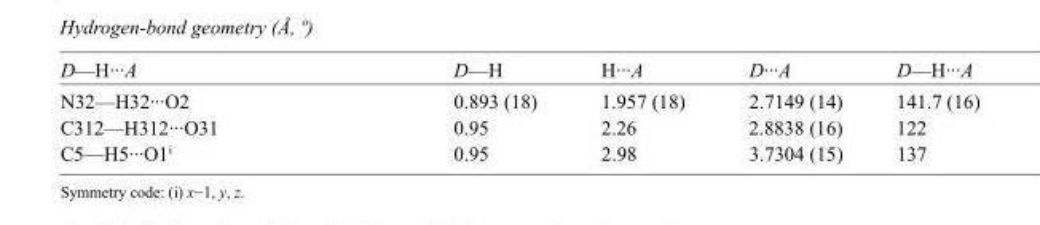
<table><tbody><tr><td>D—H···A</td><td>D—H</td><td>H···A</td><td>D···A</td><td>D—H···A</td></tr><tr><td>N32—H32···O2</td><td>0.893 (18)</td><td>1.957 (18)</td><td>2.7149 (14)</td><td>141.7 (16)</td></tr><tr><td>C312—H312···O31</td><td>0.95</td><td>2.26</td><td>2.8838 (16)</td><td>122</td></tr><tr><td>C5—H5···O1<sup>i</sup></td><td>0.95</td><td>2.98</td><td>3.7304 (15)</td><td>137</td></tr></tbody></table>